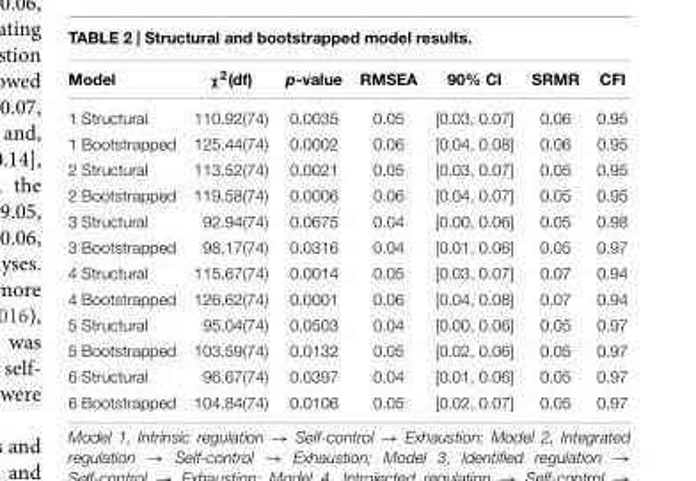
<table><thead><tr><td>Model</td><td>χ<sup>2</sup>(df)</td><td>p-value</td><td>RMSEA</td><td>90% CI</td><td>SRMR</td><td>CFI</td></tr></thead><tbody><tr><td>1 Structural</td><td>110.92(74)</td><td>0.0035</td><td>0.05</td><td>[0.03, 0.07]</td><td>0.06</td><td>0.95</td></tr><tr><td>1 Bootstrapped</td><td>125.44(74)</td><td>0.0002</td><td>0.06</td><td>[0.04, 0.08]</td><td>0.06</td><td>0.95</td></tr><tr><td>2 Structural</td><td>113.52(74)</td><td>0.0021</td><td>0.05</td><td>[0.03, 0.07]</td><td>0.05</td><td>0.95</td></tr><tr><td>2 Bootstrapped</td><td>119.58(74)</td><td>0.0006</td><td>0.06</td><td>[0.04, 0.07]</td><td>0.05</td><td>0.95</td></tr><tr><td>3 Structural</td><td>92.94(74)</td><td>0.0675</td><td>0.04</td><td>[0.00, 0.06]</td><td>0.05</td><td>0.98</td></tr><tr><td>3 Bootstrapped</td><td>98.17(74)</td><td>0.0316</td><td>0.04</td><td>[0.01, 0.06]</td><td>0.05</td><td>0.97</td></tr><tr><td>4 Structural</td><td>115.67(74)</td><td>0.0014</td><td>0.05</td><td>[0.03, 0.07]</td><td>0.07</td><td>0.94</td></tr><tr><td>4 Bootstrapped</td><td>126.62(74)</td><td>0.0001</td><td>0.06</td><td>[0.04, 0.08]</td><td>0.07</td><td>0.94</td></tr><tr><td>5 Structural</td><td>95.04(74)</td><td>0.0503</td><td>0.04</td><td>[0.00, 0.06]</td><td>0.05</td><td>0.97</td></tr><tr><td>5 Bootstrapped</td><td>103.59(74)</td><td>0.0132</td><td>0.05</td><td>[0.02, 0.06]</td><td>0.05</td><td>0.97</td></tr><tr><td>6 Structural</td><td>96.67(74)</td><td>0.0397</td><td>0.04</td><td>[0.01, 0.06]</td><td>0.05</td><td>0.97</td></tr><tr><td>6 Bootstrapped</td><td>104.84(74)</td><td>0.0106</td><td>0.05</td><td>[0.02, 0.07]</td><td>0.05</td><td>0.97</td></tr></tbody></table>